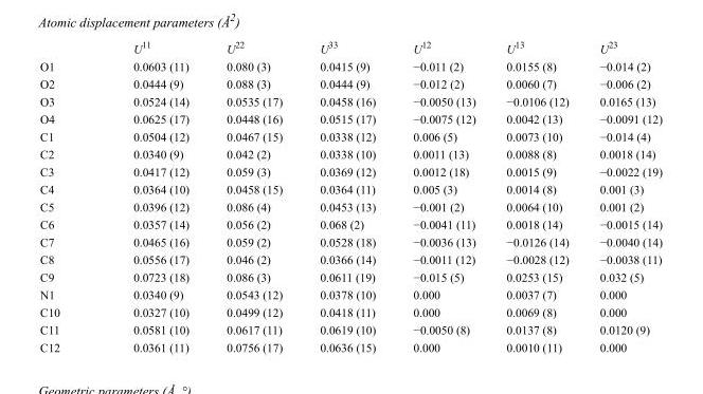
<table><thead><tr><td></td><td>U<sup>11</sup></td><td>U<sup>22</sup></td><td>U<sup>33</sup></td><td>U<sup>12</sup></td><td>U<sup>13</sup></td><td>U<sup>23</sup></td></tr></thead><tbody><tr><td>O1</td><td>0.0603 (11)</td><td>0.080 (3)</td><td>0.0415 (9)</td><td>−0.011 (2)</td><td>0.0155 (8)</td><td>−0.014 (2)</td></tr><tr><td>O2</td><td>0.0444 (9)</td><td>0.088 (3)</td><td>0.0444 (9)</td><td>−0.012 (2)</td><td>0.0060 (7)</td><td>−0.006 (2)</td></tr><tr><td>O3</td><td>0.0524 (14)</td><td>0.0535 (17)</td><td>0.0458 (16)</td><td>−0.0050 (13)</td><td>−0.0106 (12)</td><td>0.0165 (13)</td></tr><tr><td>O4</td><td>0.0625 (17)</td><td>0.0448 (16)</td><td>0.0515 (17)</td><td>−0.0075 (12)</td><td>0.0042 (13)</td><td>−0.0091 (12)</td></tr><tr><td>C1</td><td>0.0504 (12)</td><td>0.0467 (15)</td><td>0.0338 (12)</td><td>0.006 (5)</td><td>0.0073 (10)</td><td>−0.014 (4)</td></tr><tr><td>C2</td><td>0.0340 (9)</td><td>0.042 (2)</td><td>0.0338 (10)</td><td>0.0011 (13)</td><td>0.0088 (8)</td><td>0.0018 (14)</td></tr><tr><td>C3</td><td>0.0417 (12)</td><td>0.059 (3)</td><td>0.0369 (12)</td><td>0.0012 (18)</td><td>0.0015 (9)</td><td>−0.0022 (19)</td></tr><tr><td>C4</td><td>0.0364 (10)</td><td>0.0458 (15)</td><td>0.0364 (11)</td><td>0.005 (3)</td><td>0.0014 (8)</td><td>0.001 (3)</td></tr><tr><td>C5</td><td>0.0396 (12)</td><td>0.086 (4)</td><td>0.0453 (13)</td><td>−0.001 (2)</td><td>0.0064 (10)</td><td>0.001 (2)</td></tr><tr><td>C6</td><td>0.0357 (14)</td><td>0.056 (2)</td><td>0.068 (2)</td><td>−0.0041 (11)</td><td>0.0018 (14)</td><td>−0.0015 (14)</td></tr><tr><td>C7</td><td>0.0465 (16)</td><td>0.059 (2)</td><td>0.0528 (18)</td><td>−0.0036 (13)</td><td>−0.0126 (14)</td><td>−0.0040 (14)</td></tr><tr><td>C8</td><td>0.0556 (17)</td><td>0.046 (2)</td><td>0.0366 (14)</td><td>−0.0011 (12)</td><td>−0.0028 (12)</td><td>−0.0038 (11)</td></tr><tr><td>C9</td><td>0.0723 (18)</td><td>0.086 (3)</td><td>0.0611 (19)</td><td>−0.015 (5)</td><td>0.0253 (15)</td><td>0.032 (5)</td></tr><tr><td>N1</td><td>0.0340 (9)</td><td>0.0543 (12)</td><td>0.0378 (10)</td><td>0.000</td><td>0.0037 (7)</td><td>0.000</td></tr><tr><td>C10</td><td>0.0327 (10)</td><td>0.0499 (12)</td><td>0.0418 (11)</td><td>0.000</td><td>0.0069 (8)</td><td>0.000</td></tr><tr><td>C11</td><td>0.0581 (10)</td><td>0.0617 (11)</td><td>0.0619 (10)</td><td>−0.0050 (8)</td><td>0.0137 (8)</td><td>0.0120 (9)</td></tr><tr><td>C12</td><td>0.0361 (11)</td><td>0.0756 (17)</td><td>0.0636 (15)</td><td>0.000</td><td>0.0010 (11)</td><td>0.000</td></tr></tbody></table>